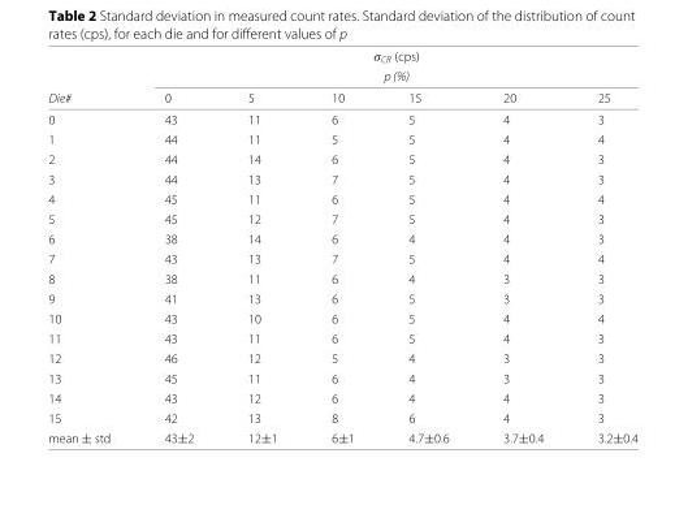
<table><thead><tr><td rowspan="3">Die#</td><td rowspan="2" colspan="6">σ<sub>CR</sub> (cps) p (%)</td></tr><tr></tr><tr><td>0</td><td>5</td><td>10</td><td>15</td><td>20</td><td>25</td></tr></thead><tbody><tr><td>0</td><td>43</td><td>11</td><td>6</td><td>5</td><td>4</td><td>3</td></tr><tr><td>1</td><td>44</td><td>11</td><td>5</td><td>5</td><td>4</td><td>4</td></tr><tr><td>2</td><td>44</td><td>14</td><td>6</td><td>5</td><td>4</td><td>3</td></tr><tr><td>3</td><td>44</td><td>13</td><td>7</td><td>5</td><td>4</td><td>3</td></tr><tr><td>4</td><td>45</td><td>11</td><td>6</td><td>5</td><td>4</td><td>4</td></tr><tr><td>5</td><td>45</td><td>12</td><td>7</td><td>5</td><td>4</td><td>3</td></tr><tr><td>6</td><td>38</td><td>14</td><td>6</td><td>4</td><td>4</td><td>3</td></tr><tr><td>7</td><td>43</td><td>13</td><td>7</td><td>5</td><td>4</td><td>4</td></tr><tr><td>8</td><td>38</td><td>11</td><td>6</td><td>4</td><td>3</td><td>3</td></tr><tr><td>9</td><td>41</td><td>13</td><td>6</td><td>5</td><td>3</td><td>3</td></tr><tr><td>10</td><td>43</td><td>10</td><td>6</td><td>5</td><td>4</td><td>4</td></tr><tr><td>11</td><td>43</td><td>11</td><td>6</td><td>5</td><td>4</td><td>3</td></tr><tr><td>12</td><td>46</td><td>12</td><td>5</td><td>4</td><td>3</td><td>3</td></tr><tr><td>13</td><td>45</td><td>11</td><td>6</td><td>4</td><td>3</td><td>3</td></tr><tr><td>14</td><td>43</td><td>12</td><td>6</td><td>4</td><td>4</td><td>3</td></tr><tr><td>15</td><td>42</td><td>13</td><td>8</td><td>6</td><td>4</td><td>3</td></tr><tr><td>mean ± std</td><td>43±2</td><td>12±1</td><td>6±1</td><td>4.7±0.6</td><td>3.7±0.4</td><td>3.2±0.4</td></tr></tbody></table>